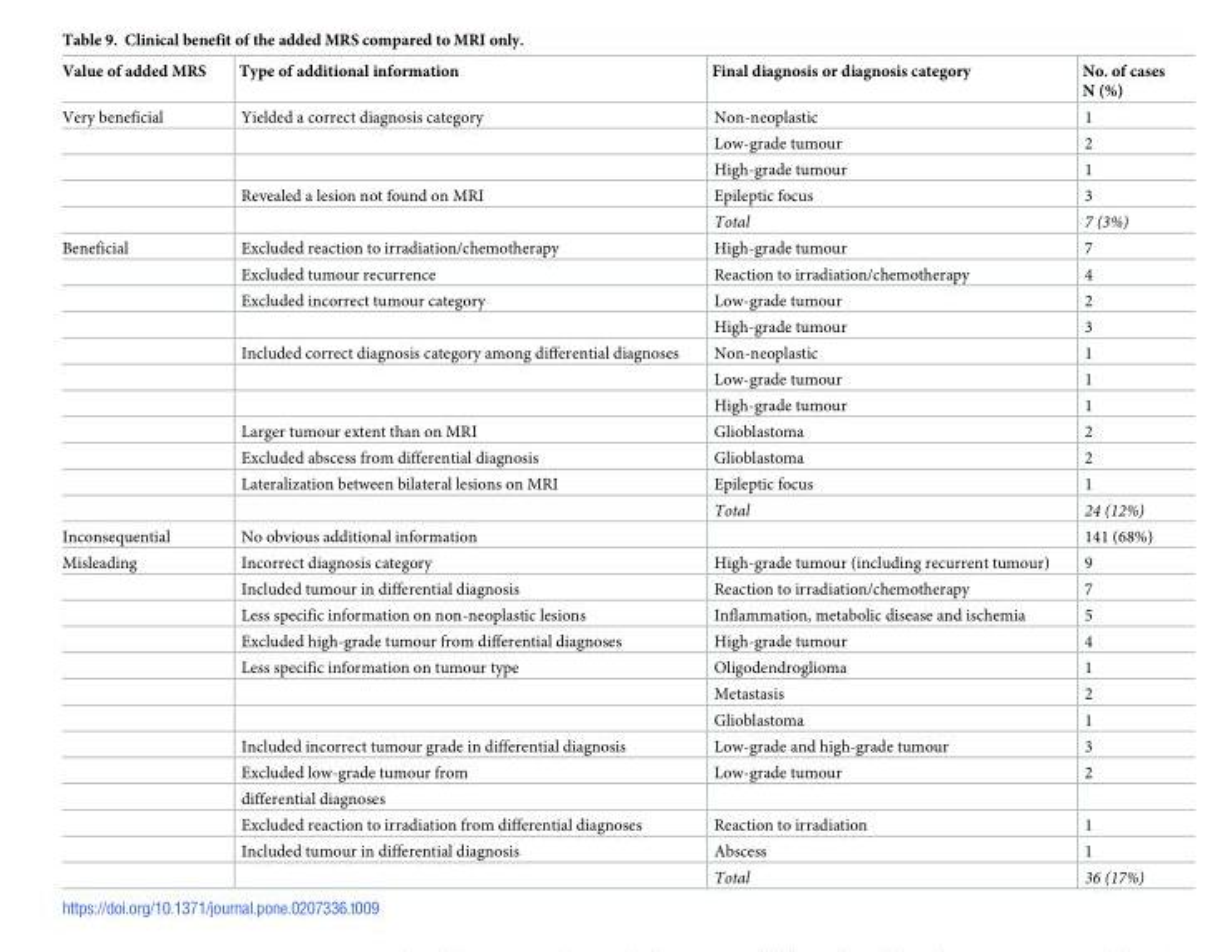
<table><thead><tr><td>Value of added MRS</td><td>Type of additional information</td><td>Final diagnosis or diagnosis category</td><td>No. of cases N (%)</td></tr></thead><tbody><tr><td rowspan="5">Very beneficial</td><td>Yielded a correct diagnosis category</td><td>Non-neoplastic</td><td>1</td></tr><tr><td></td><td>Low-grade tumour</td><td>2</td></tr><tr><td></td><td>High-grade tumour</td><td>1</td></tr><tr><td>Revealed a lesion not found on MRI</td><td>Epileptic focus</td><td>3</td></tr><tr><td></td><td>Total</td><td>7 (3%)</td></tr><tr><td rowspan="11">Beneficial</td><td>Excluded reaction to irradiation/chemotherapy</td><td>High-grade tumour</td><td>7</td></tr><tr><td>Excluded tumour recurrence</td><td>Reaction to irradiation/chemotherapy</td><td>4</td></tr><tr><td>Excluded incorrect tumour category</td><td>Low-grade tumour</td><td>2</td></tr><tr><td></td><td>High-grade tumour</td><td>3</td></tr><tr><td>Included correct diagnosis category among differential diagnoses</td><td>Non-neoplastic</td><td>1</td></tr><tr><td></td><td>Low-grade tumour</td><td>1</td></tr><tr><td></td><td>High-grade tumour</td><td>1</td></tr><tr><td>Larger tumour extent than on MRI</td><td>Glioblastoma</td><td>2</td></tr><tr><td>Excluded abscess from differential diagnosis</td><td>Glioblastoma</td><td>2</td></tr><tr><td>Lateralization between bilateral lesions on MRI</td><td>Epileptic focus</td><td>1</td></tr><tr><td></td><td>Total</td><td>24 (12%)</td></tr><tr><td>Inconsequential</td><td>No obvious additional information</td><td></td><td>141 (68%)</td></tr><tr><td rowspan="13">Misleading</td><td>Incorrect diagnosis category</td><td>High-grade tumour (including recurrent tumour)</td><td>9</td></tr><tr><td>Included tumour in differential diagnosis</td><td>Reaction to irradiation/chemotherapy</td><td>7</td></tr><tr><td>Less specific information on non-neoplastic lesions</td><td>Inflammation, metabolic disease and ischemia</td><td>5</td></tr><tr><td>Excluded high-grade tumour from differential diagnoses</td><td>High-grade tumour</td><td>4</td></tr><tr><td>Less specific information on tumour type</td><td>Oligodendroglioma</td><td>1</td></tr><tr><td></td><td>Metastasis</td><td>2</td></tr><tr><td></td><td>Glioblastoma</td><td>1</td></tr><tr><td>Included incorrect tumour grade in differential diagnosis</td><td>Low-grade and high-grade tumour</td><td>3</td></tr><tr><td>Excluded low-grade tumour from</td><td>Low-grade tumour</td><td>2</td></tr><tr><td>differential diagnoses</td><td></td><td></td></tr><tr><td>Excluded reaction to irradiation from differential diagnoses</td><td>Reaction to irradiation</td><td>1</td></tr><tr><td>Included tumour in differential diagnosis</td><td>Abscess</td><td>1</td></tr><tr><td></td><td>Total</td><td>36 (17%)</td></tr></tbody></table>